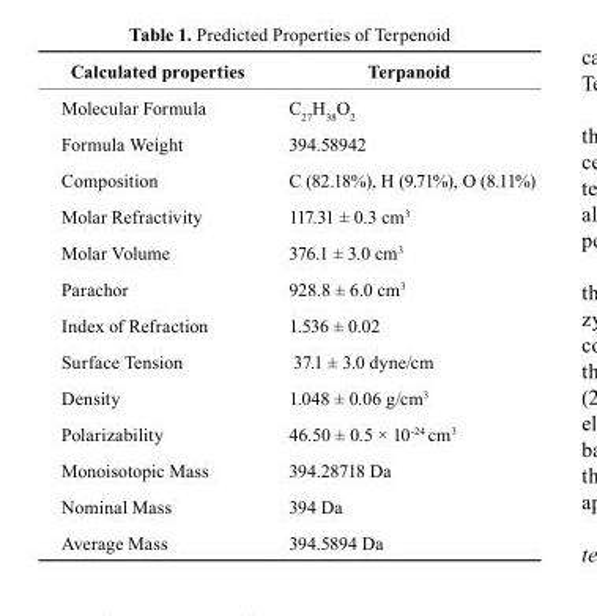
<table><thead><tr><td>calculated properties</td><td>terpanoid</td></tr></thead><tbody><tr><td>Molecular Formula</td><td>C<sub>27</sub>H<sub>38</sub>O<sub>2</sub></td></tr><tr><td>Formula Weight</td><td>394.58942</td></tr><tr><td>Composition</td><td>C (82.18%), H (9.71%), O (8.11%)</td></tr><tr><td>Molar Refractivity</td><td>117.31 ± 0.3 cm<sup>3</sup></td></tr><tr><td>Molar Volume</td><td>376.1 ± 3.0 cm<sup>3</sup></td></tr><tr><td>Parachor</td><td>928.8 ± 6.0 cm<sup>3</sup></td></tr><tr><td>Index of Refraction</td><td>1.536 ± 0.02</td></tr><tr><td>Surface Tension</td><td>37.1 ± 3.0 dyne/cm</td></tr><tr><td>Density</td><td>1.048 ± 0.06 g/cm<sup>3</sup></td></tr><tr><td>Polarizability</td><td>46.50 ± 0.5 × 10<sup>-24</sup> cm<sup>3</sup></td></tr><tr><td>Monoisotopic Mass</td><td>394.28718 Da</td></tr><tr><td>Nominal Mass</td><td>394 Da</td></tr><tr><td>Average Mass</td><td>394.5894 Da</td></tr></tbody></table>